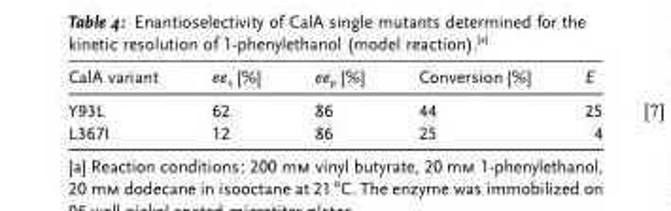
<table><thead><tr><td>CalA variant</td><td>ee<sub>s</sub> [%]</td><td>ee<sub>p</sub> [%]</td><td>Conversion [%]</td><td>E</td></tr></thead><tbody><tr><td>Y93L</td><td>62</td><td>86</td><td>44</td><td>25</td></tr><tr><td>L367I</td><td>12</td><td>86</td><td>25</td><td>4</td></tr></tbody></table>